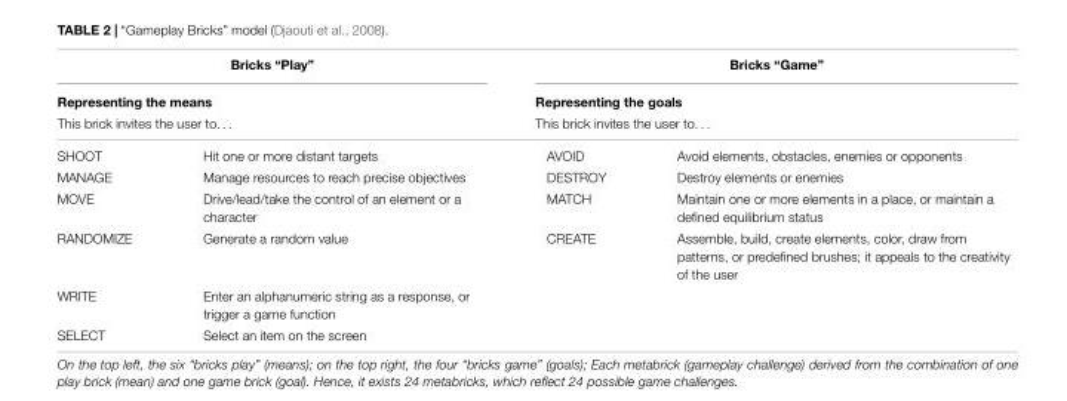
<table><thead><tr><td rowspan="2" colspan="2">Bricks “Play” Representing the means This brick invites the user to. . .</td><td rowspan="2" colspan="2">Bricks “Game” Representing the goals This brick invites the user to. . .</td></tr><tr></tr><tr><td>SHOOT</td><td>Hit one or more distant targets</td><td>AVOID</td><td>Avoid elements, obstacles, enemies or opponents</td></tr></thead><tbody><tr><td>MANAGE</td><td>Manage resources to reach precise objectives</td><td>DESTROY</td><td>Destroy elements or enemies</td></tr><tr><td>MOVE</td><td>Drive/lead/take the control of an element or a character</td><td>MATCH</td><td>Maintain one or more elements in a place, or maintain a defined equilibrium status</td></tr><tr><td>RANDOMIZE</td><td>Generate a random value</td><td>CREATE</td><td>Assemble, build, create elements, color, draw from patterns, or predefined brushes; it appeals to the creativity of the user</td></tr><tr><td>WRITE</td><td>Enter an alphanumeric string as a response, or trigger a game function</td><td colspan="2"></td></tr><tr><td>SELECT</td><td>Select an item on the screen</td><td colspan="2"></td></tr></tbody></table>